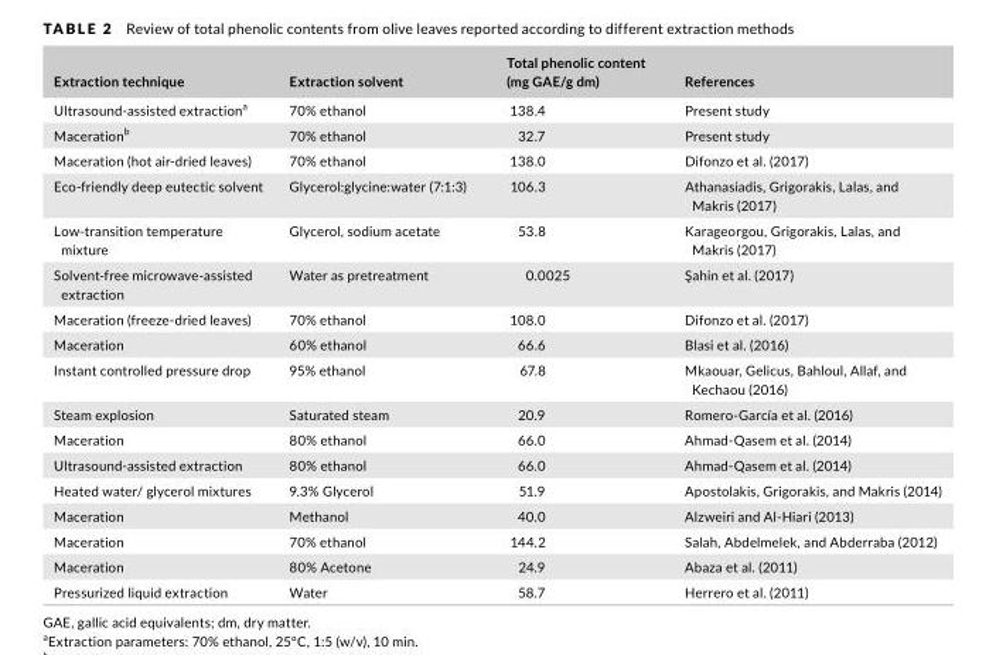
<table><thead><tr><td>Extraction technique</td><td>Extraction solvent</td><td>Total phenolic content (mg GAE/g dm)</td><td>References</td></tr></thead><tbody><tr><td>Ultrasound- assisted extraction<sup>a</sup></td><td>70% ethanol</td><td>138.4</td><td>Present study</td></tr><tr><td>Maceration<sup>b</sup></td><td>70% ethanol</td><td>32.7</td><td>Present study</td></tr><tr><td>Maceration (hot air- dried leaves)</td><td>70% ethanol</td><td>138.0</td><td>Difonzo et al. (2017)</td></tr><tr><td>Eco- friendly deep eutectic solvent</td><td>Glycerol:glycine:water (7:1:3)</td><td>106.3</td><td>Athanasiadis, Grigorakis, Lalas, and Makris (2017)</td></tr><tr><td>Low- transition temperature mixture</td><td>Glycerol, sodium acetate</td><td>53.8</td><td>Karageorgou, Grigorakis, Lalas, and Makris (2017)</td></tr><tr><td>Solvent- free microwave- assisted extraction</td><td>Water as pretreatment</td><td>0.0025</td><td>Şahin et al. (2017)</td></tr><tr><td>Maceration (freeze- dried leaves)</td><td>70% ethanol</td><td>108.0</td><td>Difonzo et al. (2017)</td></tr><tr><td>Maceration</td><td>60% ethanol</td><td>66.6</td><td>Blasi et al. (2016)</td></tr><tr><td>Instant controlled pressure drop</td><td>95% ethanol</td><td>67.8</td><td>Mkaouar, Gelicus, Bahloul, Allaf, and Kechaou (2016)</td></tr><tr><td>Steam explosion</td><td>Saturated steam</td><td>20.9</td><td>Romero- García et al. (2016)</td></tr><tr><td>Maceration</td><td>80% ethanol</td><td>66.0</td><td>Ahmad- Qasem et al. (2014)</td></tr><tr><td>Ultrasound- assisted extraction</td><td>80% ethanol</td><td>66.0</td><td>Ahmad- Qasem et al. (2014)</td></tr><tr><td>Heated water/ glycerol mixtures</td><td>9.3% Glycerol</td><td>51.9</td><td>Apostolakis, Grigorakis, and Makris (2014)</td></tr><tr><td>Maceration</td><td>Methanol</td><td>40.0</td><td>Alzweiri and Al- Hiari (2013)</td></tr><tr><td>Maceration</td><td>70% ethanol</td><td>144.2</td><td>Salah, Abdelmelek, and Abderraba (2012)</td></tr><tr><td>Maceration</td><td>80% Acetone</td><td>24.9</td><td>Abaza et al. (2011)</td></tr><tr><td>Pressurized liquid extraction</td><td>Water</td><td>58.7</td><td>Herrero et al. (2011)</td></tr></tbody></table>